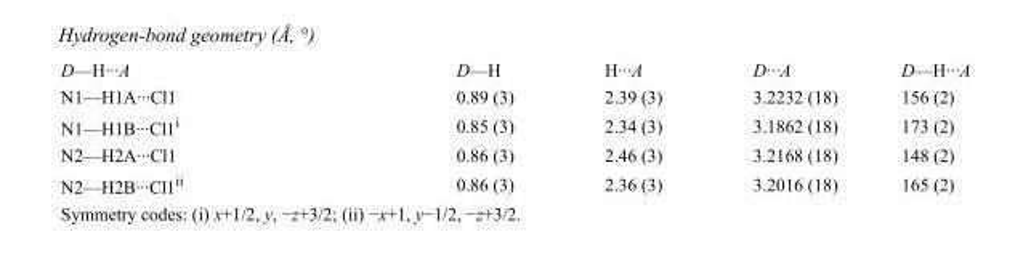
<table><tbody><tr><td>D—H···A</td><td>D—H</td><td>H···A</td><td>D···A</td><td>D—H···A</td></tr><tr><td>N1—H1A···Cl1</td><td>0.89 (3)</td><td>2.39 (3)</td><td>3.2232 (18)</td><td>156 (2)</td></tr><tr><td>N1—H1B···Cl1<sup>i</sup></td><td>0.85 (3)</td><td>2.34 (3)</td><td>3.1862 (18)</td><td>173 (2)</td></tr><tr><td>N2—H2A···Cl1</td><td>0.86 (3)</td><td>2.46 (3)</td><td>3.2168 (18)</td><td>148 (2)</td></tr><tr><td>N2—H2B···Cl1<sup>ii</sup></td><td>0.86 (3)</td><td>2.36 (3)</td><td>3.2016 (18)</td><td>165 (2)</td></tr></tbody></table>